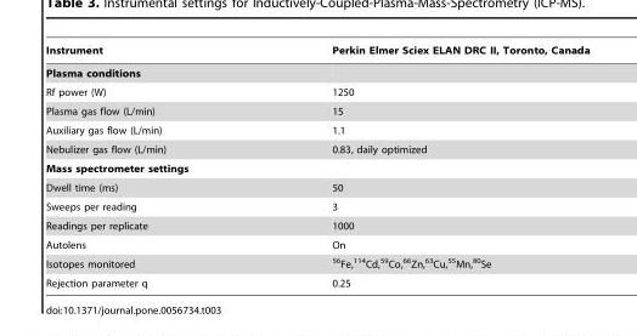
<table><thead><tr><td>Instrument</td><td>Perkin Elmer Sciex ELAN DRC II, Toronto, Canada</td></tr></thead><tbody><tr><td colspan="2">Plasma conditions</td></tr><tr><td>Rf power (W)</td><td>1250</td></tr><tr><td>Plasma gas flow (L/min)</td><td>15</td></tr><tr><td>Auxiliary gas flow (L/min)</td><td>1.1</td></tr><tr><td>Nebulizer gas flow (L/min)</td><td>0.83, daily optimized</td></tr><tr><td colspan="2">Mass spectrometer settings</td></tr><tr><td>Dwell time (ms)</td><td>50</td></tr><tr><td>Sweeps per reading</td><td>3</td></tr><tr><td>Readings per replicate</td><td>1000</td></tr><tr><td>Autolens</td><td>On</td></tr><tr><td>Isotopes monitored</td><td><sup>56</sup>Fe,<sup>114</sup>Cd,<sup>59</sup>Co,<sup>66</sup>Zn,<sup>63</sup>Cu,<sup>55</sup>Mn,<sup>80</sup>Se</td></tr><tr><td>Rejection parameter q</td><td>0.25</td></tr></tbody></table>